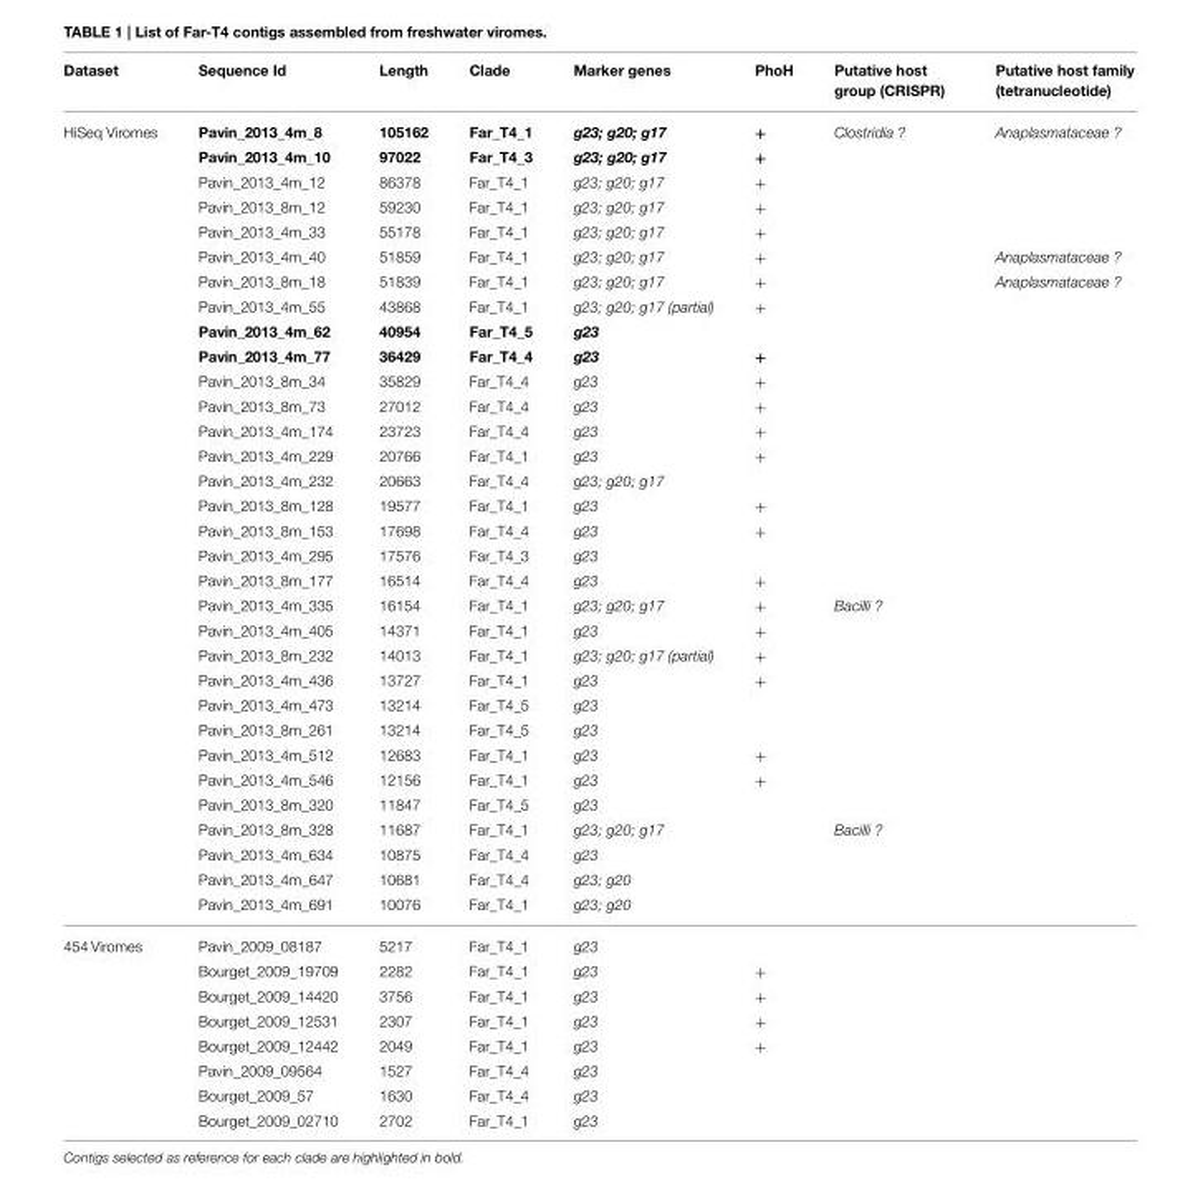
<table><thead><tr><td>Dataset</td><td>Sequence Id</td><td>Length</td><td>Clade</td><td>Marker genes</td><td>PhoH</td><td>Putative host group (CRISPR)</td><td>Putative host family (tetranucleotide)</td></tr></thead><tbody><tr><td rowspan="32">HiSeq Viromes</td><td>Pavin_2013_4m_8</td><td>105162</td><td>Far_T4_1</td><td>g23; g20; g17</td><td>+</td><td>Clostridia ?</td><td>Anaplasmataceae ?</td></tr><tr><td>Pavin_2013_4m_10</td><td>97022</td><td>Far_T4_3</td><td>g23; g20; g17</td><td>+</td><td></td><td></td></tr><tr><td>Pavin_2013_4m_12</td><td>86378</td><td>Far_T4_1</td><td>g23; g20; g17</td><td>+</td><td></td><td></td></tr><tr><td>Pavin_2013_8m_12</td><td>59230</td><td>Far_T4_1</td><td>g23; g20; g17</td><td>+</td><td></td><td></td></tr><tr><td>Pavin_2013_4m_33</td><td>55178</td><td>Far_T4_1</td><td>g23; g20; g17</td><td>+</td><td></td><td></td></tr><tr><td>Pavin_2013_4m_40</td><td>51859</td><td>Far_T4_1</td><td>g23; g20; g17</td><td>+</td><td></td><td>Anaplasmataceae ?</td></tr><tr><td>Pavin_2013_8m_18</td><td>51839</td><td>Far_T4_1</td><td>g23; g20; g17</td><td>+</td><td></td><td>Anaplasmataceae ?</td></tr><tr><td>Pavin_2013_4m_55</td><td>43868</td><td>Far_T4_1</td><td>g23; g20; g17 (partial)</td><td>+</td><td></td><td></td></tr><tr><td>Pavin_2013_4m_62</td><td>40954</td><td>Far_T4_5</td><td>g23</td><td></td><td></td><td></td></tr><tr><td>Pavin_2013_4m_77</td><td>36429</td><td>Far_T4_4</td><td>g23</td><td>+</td><td></td><td></td></tr><tr><td>Pavin_2013_8m_34</td><td>35829</td><td>Far_T4_4</td><td>g23</td><td>+</td><td></td><td></td></tr><tr><td>Pavin_2013_8m_73</td><td>27012</td><td>Far_T4_4</td><td>g23</td><td>+</td><td></td><td></td></tr><tr><td>Pavin_2013_4m_174</td><td>23723</td><td>Far_T4_4</td><td>g23</td><td>+</td><td></td><td></td></tr><tr><td>Pavin_2013_4m_229</td><td>20766</td><td>Far_T4_1</td><td>g23</td><td>+</td><td></td><td></td></tr><tr><td>Pavin_2013_4m_232</td><td>20663</td><td>Far_T4_4</td><td>g23; g20; g17</td><td></td><td></td><td></td></tr><tr><td>Pavin_2013_8m_128</td><td>19577</td><td>Far_T4_1</td><td>g23</td><td>+</td><td></td><td></td></tr><tr><td>Pavin_2013_8m_153</td><td>17698</td><td>Far_T4_4</td><td>g23</td><td>+</td><td></td><td></td></tr><tr><td>Pavin_2013_4m_295</td><td>17576</td><td>Far_T4_3</td><td>g23</td><td></td><td></td><td></td></tr><tr><td>Pavin_2013_8m_177</td><td>16514</td><td>Far_T4_4</td><td>g23</td><td>+</td><td></td><td></td></tr><tr><td>Pavin_2013_4m_335</td><td>16154</td><td>Far_T4_1</td><td>g23; g20; g17</td><td>+</td><td>Bacilli ?</td><td></td></tr><tr><td>Pavin_2013_4m_405</td><td>14371</td><td>Far_T4_1</td><td>g23</td><td>+</td><td></td><td></td></tr><tr><td>Pavin_2013_8m_232</td><td>14013</td><td>Far_T4_1</td><td>g23; g20; g17 (partial)</td><td>+</td><td></td><td></td></tr><tr><td>Pavin_2013_4m_436</td><td>13727</td><td>Far_T4_1</td><td>g23</td><td>+</td><td></td><td></td></tr><tr><td>Pavin_2013_4m_473</td><td>13214</td><td>Far_T4_5</td><td>g23</td><td></td><td></td><td></td></tr><tr><td>Pavin_2013_8m_261</td><td>13214</td><td>Far_T4_5</td><td>g23</td><td></td><td></td><td></td></tr><tr><td>Pavin_2013_4m_512</td><td>12683</td><td>Far_T4_1</td><td>g23</td><td>+</td><td></td><td></td></tr><tr><td>Pavin_2013_4m_546</td><td>12156</td><td>Far_T4_1</td><td>g23</td><td>+</td><td></td><td></td></tr><tr><td>Pavin_2013_8m_320</td><td>11847</td><td>Far_T4_5</td><td>g23</td><td></td><td></td><td></td></tr><tr><td>Pavin_2013_8m_328</td><td>11687</td><td>Far_T4_1</td><td>g23; g20; g17</td><td></td><td>Bacilli ?</td><td></td></tr><tr><td>Pavin_2013_4m_634</td><td>10875</td><td>Far_T4_4</td><td>g23</td><td></td><td></td><td></td></tr><tr><td>Pavin_2013_4m_647</td><td>10681</td><td>Far_T4_4</td><td>g23; g20</td><td></td><td></td><td></td></tr><tr><td>Pavin_2013_4m_691</td><td>10076</td><td>Far_T4_1</td><td>g23; g20</td><td></td><td></td><td></td></tr><tr><td rowspan="8">454 Viromes</td><td>Pavin_2009_08187</td><td>5217</td><td>Far_T4_1</td><td>g23</td><td></td><td></td><td></td></tr><tr><td>Bourget_2009_19709</td><td>2282</td><td>Far_T4_1</td><td>g23</td><td>+</td><td></td><td></td></tr><tr><td>Bourget_2009_14420</td><td>3756</td><td>Far_T4_1</td><td>g23</td><td>+</td><td></td><td></td></tr><tr><td>Bourget_2009_12531</td><td>2307</td><td>Far_T4_1</td><td>g23</td><td>+</td><td></td><td></td></tr><tr><td>Bourget_2009_12442</td><td>2049</td><td>Far_T4_1</td><td>g23</td><td>+</td><td></td><td></td></tr><tr><td>Pavin_2009_09564</td><td>1527</td><td>Far_T4_4</td><td>g23</td><td></td><td></td><td></td></tr><tr><td>Bourget_2009_57</td><td>1630</td><td>Far_T4_4</td><td>g23</td><td></td><td></td><td></td></tr><tr><td>Bourget_2009_02710</td><td>2702</td><td>Far_T4_1</td><td>g23</td><td></td><td></td><td></td></tr></tbody></table>